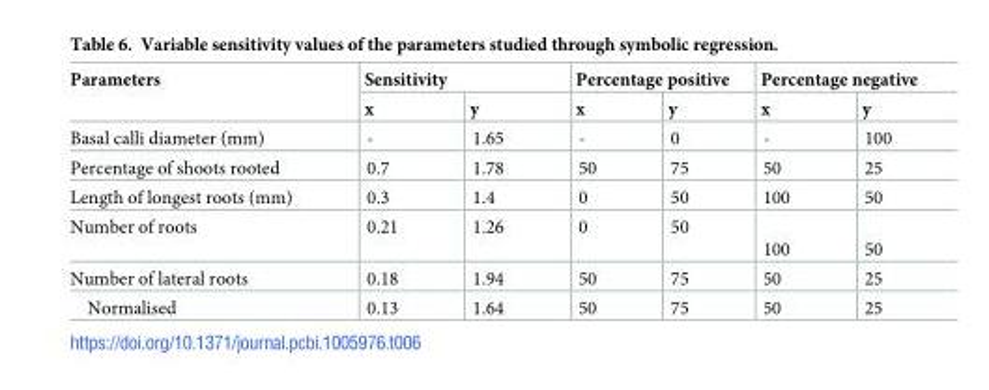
<table><thead><tr><td rowspan="2">Parameters</td><td colspan="2">Sensitivity</td><td colspan="2">Percentage positive</td><td colspan="2">Percentage negative</td></tr><tr><td>x</td><td>y</td><td>x</td><td>y</td><td>x</td><td>y</td></tr></thead><tbody><tr><td>Basal calli diameter (mm)</td><td>-</td><td>1.65</td><td>-</td><td>0</td><td>-</td><td>100</td></tr><tr><td>Percentage of shoots rooted</td><td>0.7</td><td>1.78</td><td>50</td><td>75</td><td>50</td><td>25</td></tr><tr><td>Length of longest roots (mm)</td><td>0.3</td><td>1.4</td><td>0</td><td>50</td><td>100</td><td>50</td></tr><tr><td>Number of roots</td><td>0.21</td><td>1.26</td><td>0</td><td>50</td><td>100</td><td>50</td></tr><tr><td>Number of lateral roots</td><td>0.18</td><td>1.94</td><td>50</td><td>75</td><td>50</td><td>25</td></tr><tr><td>Normalised</td><td>0.13</td><td>1.64</td><td>50</td><td>75</td><td>50</td><td>25</td></tr></tbody></table>